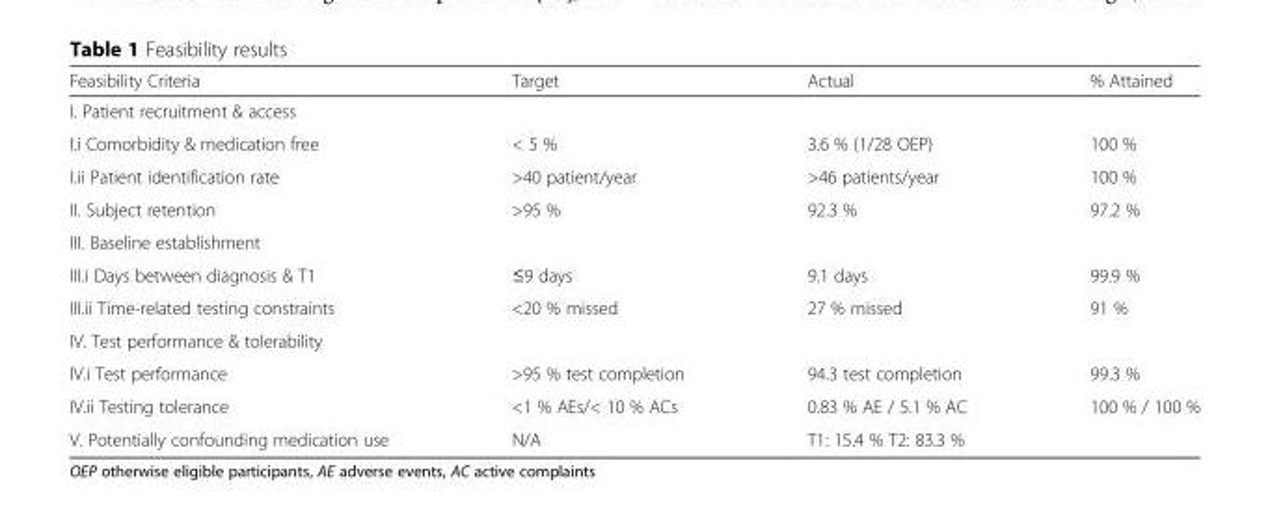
<table><thead><tr><td>Feasibility Criteria</td><td>Target</td><td>Actual</td><td>% Attained</td></tr></thead><tbody><tr><td colspan="4">I. Patient recruitment &amp; access</td></tr><tr><td>I.i Comorbidity &amp; medication free</td><td>&lt; 5 %</td><td>3.6 % (1/28 OEP)</td><td>100 %</td></tr><tr><td>I.ii Patient identification rate</td><td>&gt;40 patient/year</td><td>&gt;46 patients/year</td><td>100 %</td></tr><tr><td>II. Subject retention</td><td>&gt;95 %</td><td>92.3 %</td><td>97.2 %</td></tr><tr><td colspan="4">III. Baseline establishment</td></tr><tr><td>III.i Days between diagnosis &amp; T1</td><td>≤9 days</td><td>9.1 days</td><td>99.9 %</td></tr><tr><td>III.ii Time-related testing constraints</td><td>&lt;20 % missed</td><td>27 % missed</td><td>91 %</td></tr><tr><td colspan="4">IV. Test performance &amp; tolerability</td></tr><tr><td>IV.i Test performance</td><td>&gt;95 % test completion</td><td>94.3 test completion</td><td>99.3 %</td></tr><tr><td>IV.ii Testing tolerance</td><td>&lt;1 % AEs/&lt; 10 % ACs</td><td>0.83 % AE / 5.1 % AC</td><td>100 % / 100 %</td></tr><tr><td>V. Potentially confounding medication use</td><td>N/A</td><td>T1: 15.4 % T2: 83.3 %</td><td></td></tr></tbody></table>